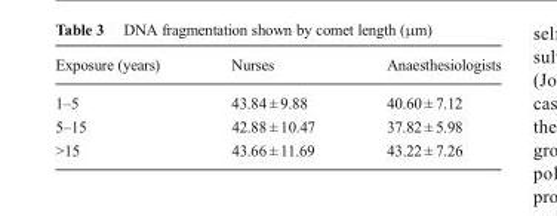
<table><thead><tr><td>Exposure (years)</td><td>Nurses</td><td>Anaesthesiologists</td></tr></thead><tbody><tr><td>1–5</td><td>43.84 ± 9.88</td><td>40.60 ± 7.12</td></tr><tr><td>5–15</td><td>42.88 ± 10.47</td><td>37.82 ± 5.98</td></tr><tr><td>&gt;15</td><td>43.66 ± 11.69</td><td>43.22 ± 7.26</td></tr></tbody></table>